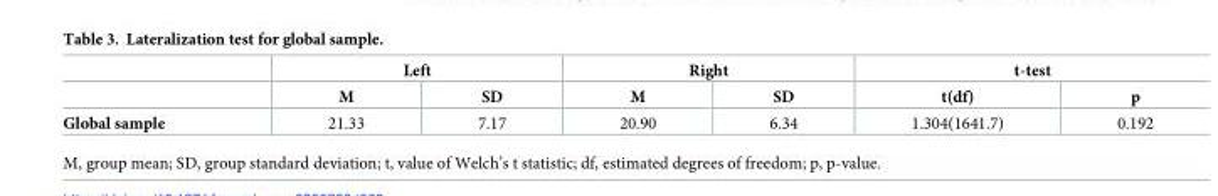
<table><thead><tr><td rowspan="2"></td><td colspan="2">Left</td><td colspan="2">Right</td><td colspan="2">t-test</td></tr><tr><td>M</td><td>SD</td><td>M</td><td>SD</td><td>t(df)</td><td>p</td></tr></thead><tbody><tr><td>Global sample</td><td>21.33</td><td>7.17</td><td>20.90</td><td>6.34</td><td>1.304(1641.7)</td><td>0.192</td></tr></tbody></table>